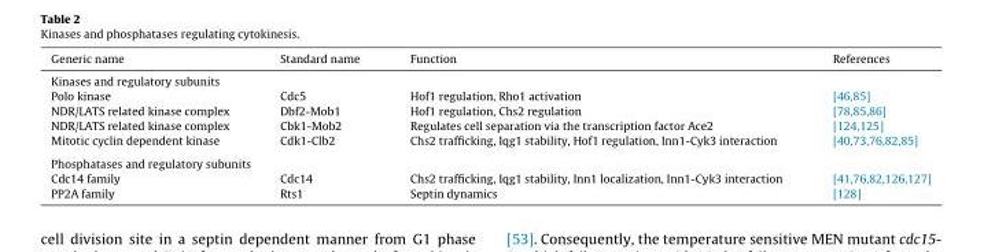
<table><thead><tr><td>Generic name</td><td>Standard name</td><td>Function</td><td>References</td></tr></thead><tbody><tr><td colspan="4">Kinases and regulatory subunits</td></tr><tr><td>Polo kinase</td><td>Cdc5</td><td>Hof1 regulation, Rho1 activation</td><td>[46,85]</td></tr><tr><td>NDR/LATS related kinase complex</td><td>Dbf2-Mob1</td><td>Hof1 regulation, Chs2 regulation</td><td>[78,85,86]</td></tr><tr><td>NDR/LATS related kinase complex</td><td>Cbk1-Mob2</td><td>Regulates cell separation via the transcription factor Ace2</td><td>[124,125]</td></tr><tr><td>Mitotic cyclin dependent kinase</td><td>Cdk1-Clb2</td><td>Chs2 trafficking, Iqg1 stability, Hof1 regulation, Inn1-Cyk3 interaction</td><td>[40,73,76,82,85]</td></tr><tr><td colspan="4">Phosphatases and regulatory subunits</td></tr><tr><td>Cdc14 family</td><td>Cdc14</td><td>Chs2 trafficking, Iqg1 stability, Inn1 localization, Inn1-Cyk3 interaction</td><td>[41,76,82,126,127]</td></tr><tr><td>PP2A family</td><td>Rts1</td><td>Septin dynamics</td><td>[128]</td></tr></tbody></table>